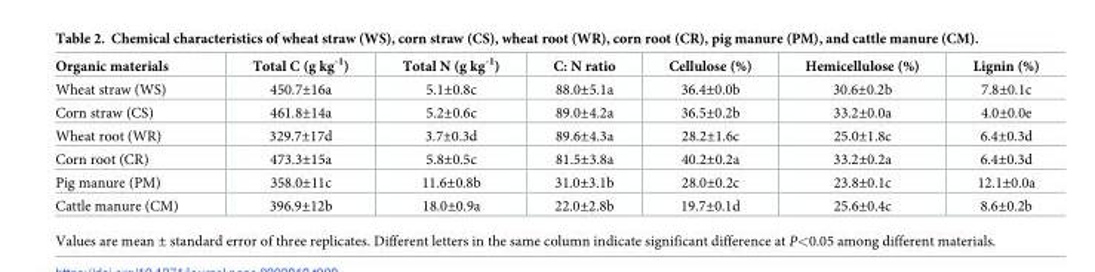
<table><thead><tr><td>Organic materials</td><td>Total C (g kg<sup>-1</sup>)</td><td>Total N (g kg<sup>-1</sup>)</td><td>C: N ratio</td><td>Cellulose (%)</td><td>Hemicellulose (%)</td><td>Lignin (%)</td></tr></thead><tbody><tr><td>Wheat straw (WS)</td><td>450.7±16a</td><td>5.1±0.8c</td><td>88.0±5.1a</td><td>36.4±0.0b</td><td>30.6±0.2b</td><td>7.8±0.1c</td></tr><tr><td>Corn straw (CS)</td><td>461.8±14a</td><td>5.2±0.6c</td><td>89.0±4.2a</td><td>36.5±0.2b</td><td>33.2±0.0a</td><td>4.0±0.0e</td></tr><tr><td>Wheat root (WR)</td><td>329.7±17d</td><td>3.7±0.3d</td><td>89.6±4.3a</td><td>28.2±1.6c</td><td>25.0±1.8c</td><td>6.4±0.3d</td></tr><tr><td>Corn root (CR)</td><td>473.3±15a</td><td>5.8±0.5c</td><td>81.5±3.8a</td><td>40.2±0.2a</td><td>33.2±0.2a</td><td>6.4±0.3d</td></tr><tr><td>Pig manure (PM)</td><td>358.0±11c</td><td>11.6±0.8b</td><td>31.0±3.1b</td><td>28.0±0.2c</td><td>23.8±0.1c</td><td>12.1±0.0a</td></tr><tr><td>Cattle manure (CM)</td><td>396.9±12b</td><td>18.0±0.9a</td><td>22.0±2.8b</td><td>19.7±0.1d</td><td>25.6±0.4c</td><td>8.6±0.2b</td></tr></tbody></table>